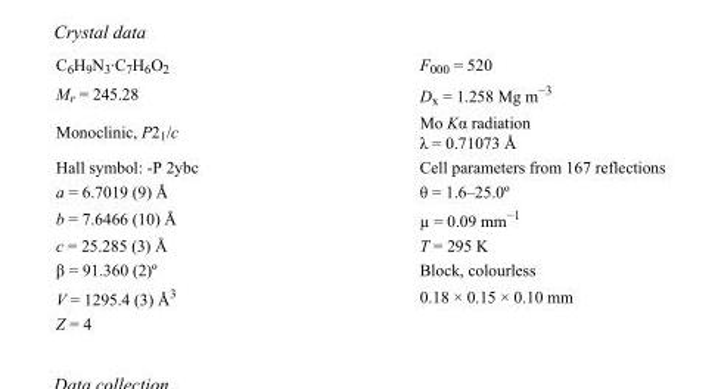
<table><tbody><tr><td>C<sub>6</sub>H<sub>9</sub>N<sub>3</sub>·C<sub>7</sub>H<sub>6</sub>O<sub>2</sub></td><td>F000 = 520</td></tr><tr><td>M<sub>r</sub> = 245.28</td><td>D<sub>x</sub> = 1.258 Mg m<sup>−3</sup></td></tr><tr><td>Monoclinic, P2<sub>1</sub>/c</td><td>Mo Kα radiation λ = 0.71073 Å</td></tr><tr><td>Hall symbol: -P 2ybc</td><td>Cell parameters from 167 reflections</td></tr><tr><td>a = 6.7019 (9) Å</td><td>θ = 1.6–25.0º</td></tr><tr><td>b = 7.6466 (10) Å</td><td>µ = 0.09 mm<sup>−1</sup></td></tr><tr><td>c = 25.285 (3) Å</td><td>T = 295 K</td></tr><tr><td>β = 91.360 (2)º</td><td>Block, colourless</td></tr><tr><td>V = 1295.4 (3) Å<sup>3</sup></td><td>0.18 × 0.15 × 0.10 mm</td></tr><tr><td>Z = 4</td><td></td></tr></tbody></table>